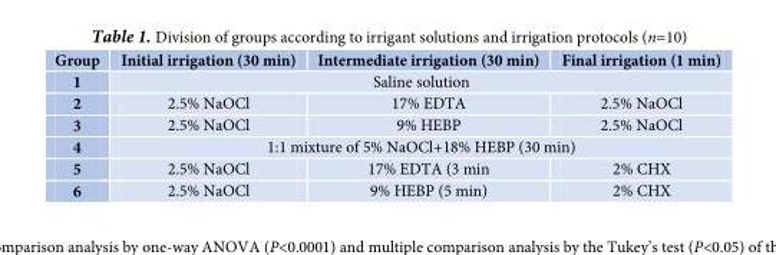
<table><thead><tr><td>Group</td><td>Initial irrigation (30 min)</td><td>Intermediate irrigation (30 min)</td><td>Final irrigation (1 min)</td></tr></thead><tbody><tr><td>1</td><td colspan="3">Saline solution</td></tr><tr><td>2</td><td>2.5% NaOCl</td><td>17% EDTA</td><td>2.5% NaOCl</td></tr><tr><td>3</td><td>2.5% NaOCl</td><td>9% HEBP</td><td>2.5% NaOCl</td></tr><tr><td>4</td><td colspan="3">1:1 mixture of 5% NaOCl+18% HEBP (30 min)</td></tr><tr><td>5</td><td>2.5% NaOCl</td><td>17% EDTA (3 min</td><td>2% CHX</td></tr><tr><td>6</td><td>2.5% NaOCl</td><td>9% HEBP (5 min)</td><td>2% CHX</td></tr></tbody></table>